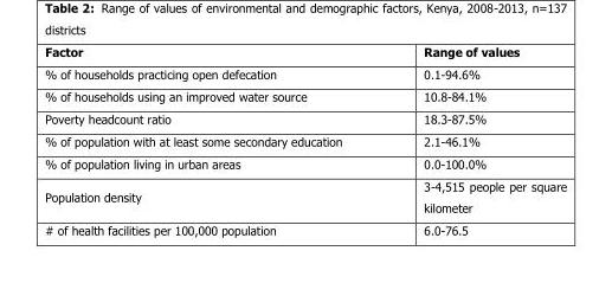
<table><thead><tr><td>Factor</td><td>Range of values</td></tr></thead><tbody><tr><td>% of households practicing open defecation</td><td>0.1-94.6%</td></tr><tr><td>% of households using an improved water source</td><td>10.8-84.1%</td></tr><tr><td>Poverty headcount ratio</td><td>18.3-87.5%</td></tr><tr><td>% of population with at least some secondary education</td><td>2.1-46.1%</td></tr><tr><td>% of population living in urban areas</td><td>0.0-100.0%</td></tr><tr><td>Population density</td><td>3-4,515 people per square kilometer</td></tr><tr><td># of health facilities per 100,000 population</td><td>6.0-76.5</td></tr></tbody></table>